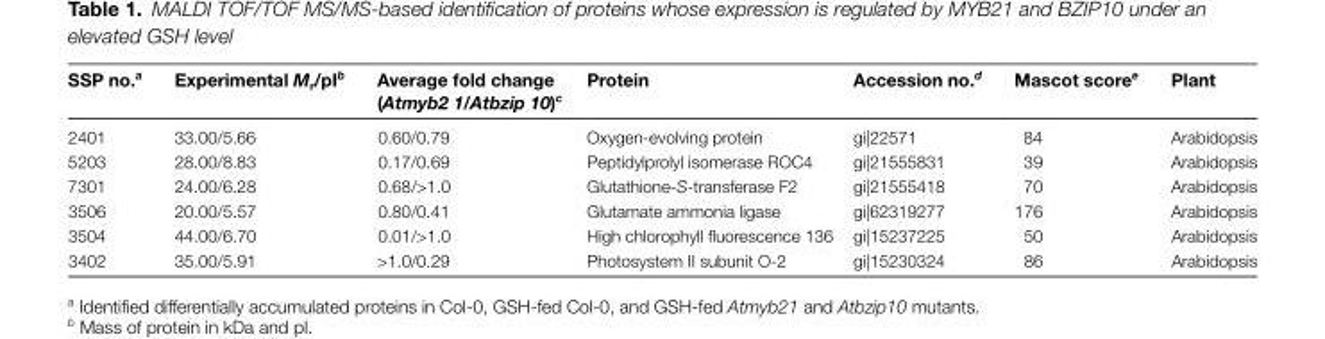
<table><thead><tr><td>SSP no.<sup>a</sup></td><td>Experimental M<sub>r</sub>/pI<sup>b</sup></td><td>Average fold change (Atmyb2 1/Atbzip 10)<sup>c</sup></td><td>Protein</td><td>Accession no.<sup>d</sup></td><td>Mascot score<sup>e</sup></td><td>Plant</td></tr></thead><tbody><tr><td>2401</td><td>33.00/5.66</td><td>0.60/0.79</td><td>Oxygen-evolving protein</td><td>gi|22571</td><td>84</td><td>Arabidopsis</td></tr><tr><td>5203</td><td>28.00/8.83</td><td>0.17/0.69</td><td>Peptidylprolyl isomerase ROC4</td><td>gi|21555831</td><td>39</td><td>Arabidopsis</td></tr><tr><td>7301</td><td>24.00/6.28</td><td>0.68/&gt;1.0</td><td>Glutathione-S-transferase F2</td><td>gi|21555418</td><td>70</td><td>Arabidopsis</td></tr><tr><td>3506</td><td>20.00/5.57</td><td>0.80/0.41</td><td>Glutamate ammonia ligase</td><td>gi|62319277</td><td>176</td><td>Arabidopsis</td></tr><tr><td>3504</td><td>44.00/6.70</td><td>0.01/&gt;1.0</td><td>High chlorophyll fluorescence 136</td><td>gi|15237225</td><td>50</td><td>Arabidopsis</td></tr><tr><td>3402</td><td>35.00/5.91</td><td>&gt;1.0/0.29</td><td>Photosystem II subunit O-2</td><td>gi|15230324</td><td>86</td><td>Arabidopsis</td></tr></tbody></table>